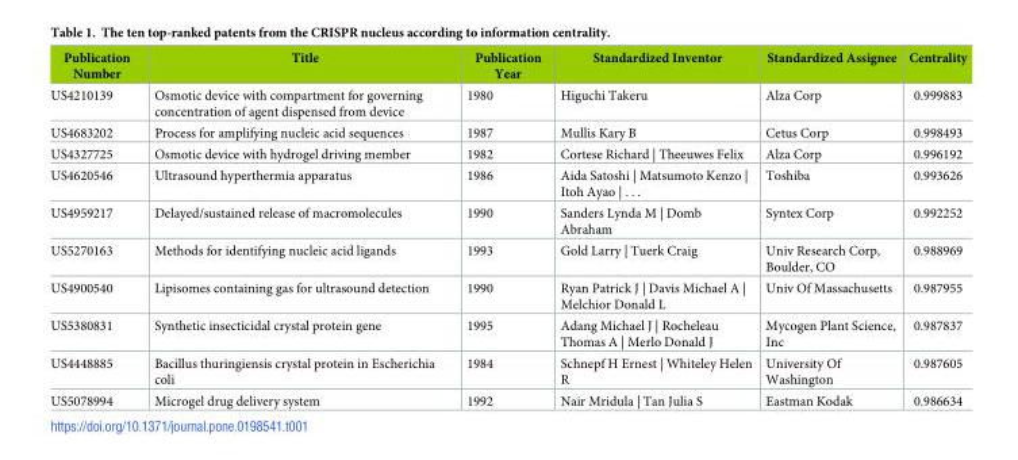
<table><thead><tr><td>Publication Number</td><td>Title</td><td>Publication Year</td><td>Standardized Inventor</td><td>Standardized Assignee</td><td>Centrality</td></tr></thead><tbody><tr><td>US4210139</td><td>Osmotic device with compartment for governing concentration of agent dispensed from device</td><td>1980</td><td>Higuchi Takeru</td><td>Alza Corp</td><td>0.999883</td></tr><tr><td>US4683202</td><td>Process for amplifying nucleic acid sequences</td><td>1987</td><td>Mullis Kary B</td><td>Cetus Corp</td><td>0.998493</td></tr><tr><td>US4327725</td><td>Osmotic device with hydrogel driving member</td><td>1982</td><td>Cortese Richard | Theeuwes Felix</td><td>Alza Corp</td><td>0.996192</td></tr><tr><td>US4620546</td><td>Ultrasound hyperthermia apparatus</td><td>1986</td><td>Aida Satoshi | Matsumoto Kenzo | Itoh Ayao | . . .</td><td>Toshiba</td><td>0.993626</td></tr><tr><td>US4959217</td><td>Delayed/sustained release of macromolecules</td><td>1990</td><td>Sanders Lynda M | Domb Abraham</td><td>Syntex Corp</td><td>0.992252</td></tr><tr><td>US5270163</td><td>Methods for identifying nucleic acid ligands</td><td>1993</td><td>Gold Larry | Tuerk Craig</td><td>Univ Research Corp, Boulder, CO</td><td>0.988969</td></tr><tr><td>US4900540</td><td>Lipisomes containing gas for ultrasound detection</td><td>1990</td><td>Ryan Patrick J | Davis Michael A | Melchior Donald L</td><td>Univ Of Massachusetts</td><td>0.987955</td></tr><tr><td>US5380831</td><td>Synthetic insecticidal crystal protein gene</td><td>1995</td><td>Adang Michael J | Rocheleau Thomas A | Merlo Donald J</td><td>Mycogen Plant Science, Inc</td><td>0.987837</td></tr><tr><td>US4448885</td><td>Bacillus thuringiensis crystal protein in Escherichia coli</td><td>1984</td><td>Schnepf H Ernest | Whiteley Helen R</td><td>University Of Washington</td><td>0.987605</td></tr><tr><td>US5078994</td><td>Microgel drug delivery system</td><td>1992</td><td>Nair Mridula | Tan Julia S</td><td>Eastman Kodak</td><td>0.986634</td></tr></tbody></table>